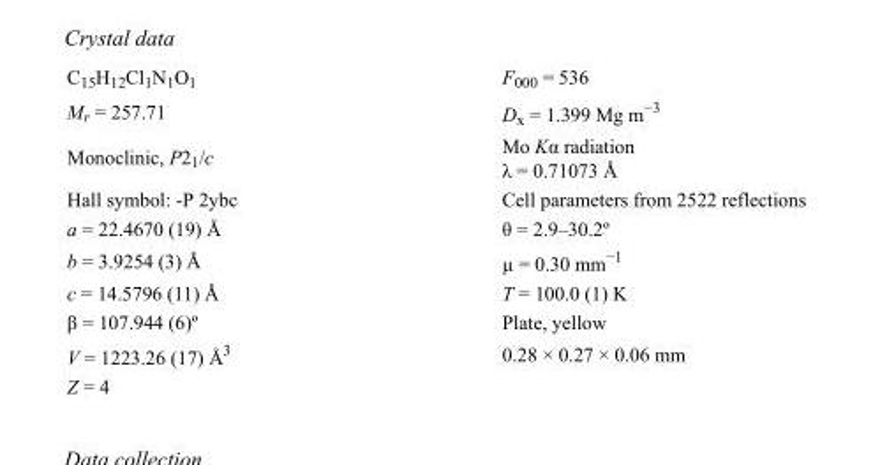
<table><tbody><tr><td>C15H12Cl1N1O1</td><td>F000 = 536</td></tr><tr><td>M<sub>r</sub> = 257.71</td><td>D<sub>x</sub> = 1.399 Mg m<sup>−3</sup></td></tr><tr><td>Monoclinic, P2<sub>1</sub>/c</td><td>Mo Kα radiation λ = 0.71073 Å</td></tr><tr><td>Hall symbol: -P 2ybc</td><td>Cell parameters from 2522 reflections</td></tr><tr><td>a = 22.4670 (19) Å</td><td>θ = 2.9–30.2º</td></tr><tr><td>b = 3.9254 (3) Å</td><td>µ = 0.30 mm<sup>−1</sup></td></tr><tr><td>c = 14.5796 (11) Å</td><td>T = 100.0 (1) K</td></tr><tr><td>β = 107.944 (6)º</td><td>Plate, yellow</td></tr><tr><td>V = 1223.26 (17) Å<sup>3</sup></td><td>0.28 × 0.27 × 0.06 mm</td></tr><tr><td>Z = 4</td><td></td></tr></tbody></table>